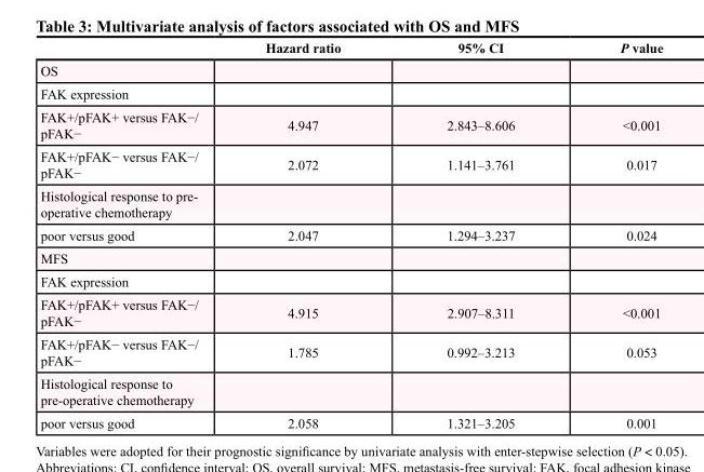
<table><thead><tr><td></td><td>Hazard ratio</td><td>95% CI</td><td>P value</td></tr></thead><tbody><tr><td colspan="4">OS</td></tr><tr><td colspan="4">FAK expression</td></tr><tr><td>FAK+/pFAK+ versus FAK−/ pFAK−</td><td>4.947</td><td>2.843–8.606</td><td>&lt;0.001</td></tr><tr><td>FAK+/pFAK− versus FAK−/ pFAK−</td><td>2.072</td><td>1.141–3.761</td><td>0.017</td></tr><tr><td colspan="4">Histological response to pre- operative chemotherapy</td></tr><tr><td>poor versus good</td><td>2.047</td><td>1.294–3.237</td><td>0.024</td></tr><tr><td colspan="4">MFS</td></tr><tr><td colspan="4">FAK expression</td></tr><tr><td>FAK+/pFAK+ versus FAK−/ pFAK−</td><td>4.915</td><td>2.907–8.311</td><td>&lt;0.001</td></tr><tr><td>FAK+/pFAK− versus FAK−/ pFAK−</td><td>1.785</td><td>0.992–3.213</td><td>0.053</td></tr><tr><td colspan="4">Histological response to pre-operative chemotherapy</td></tr><tr><td>poor versus good</td><td>2.058</td><td>1.321–3.205</td><td>0.001</td></tr></tbody></table>